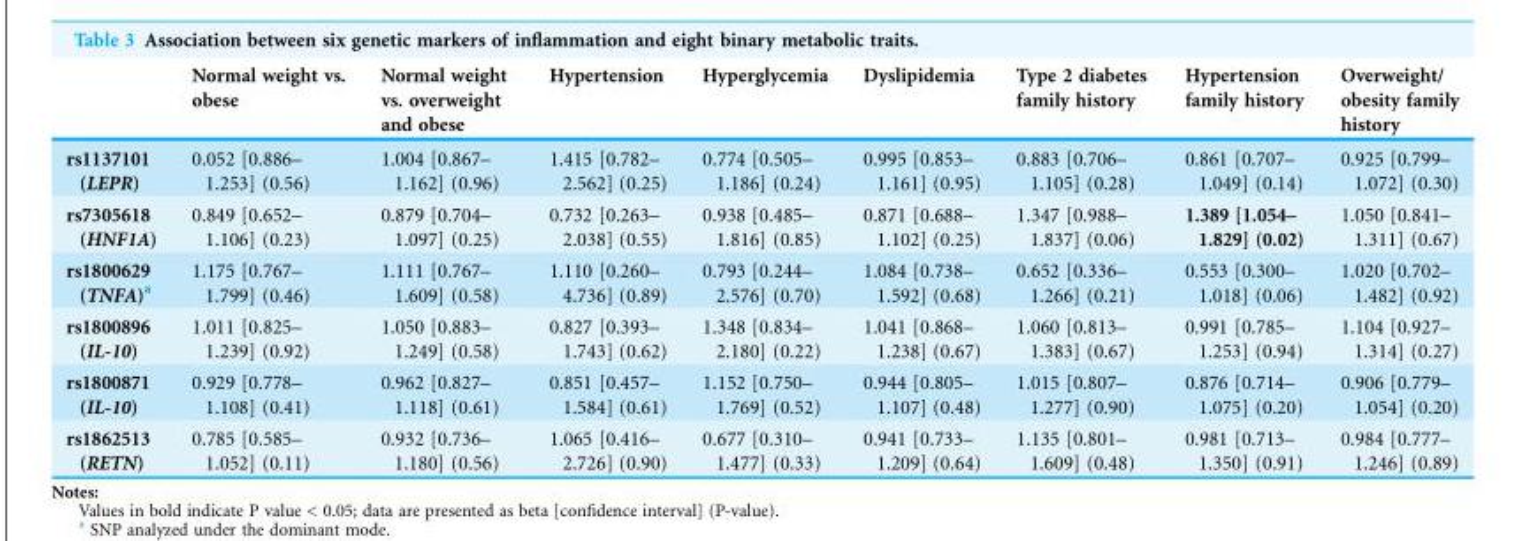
<table><thead><tr><td></td><td>Normal weight vs. obese</td><td>Normal weight vs. overweight and obese</td><td>Hypertension</td><td>Hyperglycemia</td><td>Dyslipidemia</td><td>Type 2 diabetes family history</td><td>Hypertension family history</td><td>Overweight/ obesity family history</td></tr></thead><tbody><tr><td>rs1137101 (LEPR)</td><td>0.052 [0.886– 1.253] (0.56)</td><td>1.004 [0.867– 1.162] (0.96)</td><td>1.415 [0.782– 2.562] (0.25)</td><td>0.774 [0.505– 1.186] (0.24)</td><td>0.995 [0.853– 1.161] (0.95)</td><td>0.883 [0.706– 1.105] (0.28)</td><td>0.861 [0.707– 1.049] (0.14)</td><td>0.925 [0.799– 1.072] (0.30)</td></tr><tr><td>rs7305618 (HNF1A)</td><td>0.849 [0.652– 1.106] (0.23)</td><td>0.879 [0.704– 1.097] (0.25)</td><td>0.732 [0.263– 2.038] (0.55)</td><td>0.938 [0.485– 1.816] (0.85)</td><td>0.871 [0.688– 1.102] (0.25)</td><td>1.347 [0.988– 1.837] (0.06)</td><td>1.389 [1.054– 1.829] (0.02)</td><td>1.050 [0.841– 1.311] (0.67)</td></tr><tr><td>rs1800629 (TNFA)<sup>a</sup></td><td>1.175 [0.767– 1.799] (0.46)</td><td>1.111 [0.767– 1.609] (0.58)</td><td>1.110 [0.260– 4.736] (0.89)</td><td>0.793 [0.244– 2.576] (0.70)</td><td>1.084 [0.738– 1.592] (0.68)</td><td>0.652 [0.336– 1.266] (0.21)</td><td>0.553 [0.300– 1.018] (0.06)</td><td>1.020 [0.702– 1.482] (0.92)</td></tr><tr><td>rs1800896 (IL-10)</td><td>1.011 [0.825– 1.239] (0.92)</td><td>1.050 [0.883– 1.249] (0.58)</td><td>0.827 [0.393– 1.743] (0.62)</td><td>1.348 [0.834– 2.180] (0.22)</td><td>1.041 [0.868– 1.238] (0.67)</td><td>1.060 [0.813– 1.383] (0.67)</td><td>0.991 [0.785– 1.253] (0.94)</td><td>1.104 [0.927– 1.314] (0.27)</td></tr><tr><td>rs1800871 (IL-10)</td><td>0.929 [0.778– 1.108] (0.41)</td><td>0.962 [0.827– 1.118] (0.61)</td><td>0.851 [0.457– 1.584] (0.61)</td><td>1.152 [0.750– 1.769] (0.52)</td><td>0.944 [0.805– 1.107] (0.48)</td><td>1.015 [0.807– 1.277] (0.90)</td><td>0.876 [0.714– 1.075] (0.20)</td><td>0.906 [0.779– 1.054] (0.20)</td></tr><tr><td>rs1862513 (RETN)</td><td>0.785 [0.585– 1.052] (0.11)</td><td>0.932 [0.736– 1.180] (0.56)</td><td>1.065 [0.416– 2.726] (0.90)</td><td>0.677 [0.310– 1.477] (0.33)</td><td>0.941 [0.733– 1.209] (0.64)</td><td>1.135 [0.801– 1.609] (0.48)</td><td>0.981 [0.713– 1.350] (0.91)</td><td>0.984 [0.777– 1.246] (0.89)</td></tr></tbody></table>